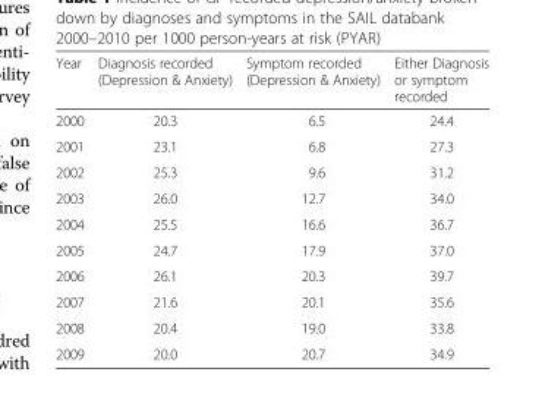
<table><thead><tr><td>Year</td><td>Diagnosis recorded (Depression &amp; Anxiety)</td><td>Symptom recorded (Depression &amp; Anxiety)</td><td>Either Diagnosis or symptom recorded</td></tr></thead><tbody><tr><td>2000</td><td>20.3</td><td>6.5</td><td>24.4</td></tr><tr><td>2001</td><td>23.1</td><td>6.8</td><td>27.3</td></tr><tr><td>2002</td><td>25.3</td><td>9.6</td><td>31.2</td></tr><tr><td>2003</td><td>26.0</td><td>12.7</td><td>34.0</td></tr><tr><td>2004</td><td>25.5</td><td>16.6</td><td>36.7</td></tr><tr><td>2005</td><td>24.7</td><td>17.9</td><td>37.0</td></tr><tr><td>2006</td><td>26.1</td><td>20.3</td><td>39.7</td></tr><tr><td>2007</td><td>21.6</td><td>20.1</td><td>35.6</td></tr><tr><td>2008</td><td>20.4</td><td>19.0</td><td>33.8</td></tr><tr><td>2009</td><td>20.0</td><td>20.7</td><td>34.9</td></tr></tbody></table>